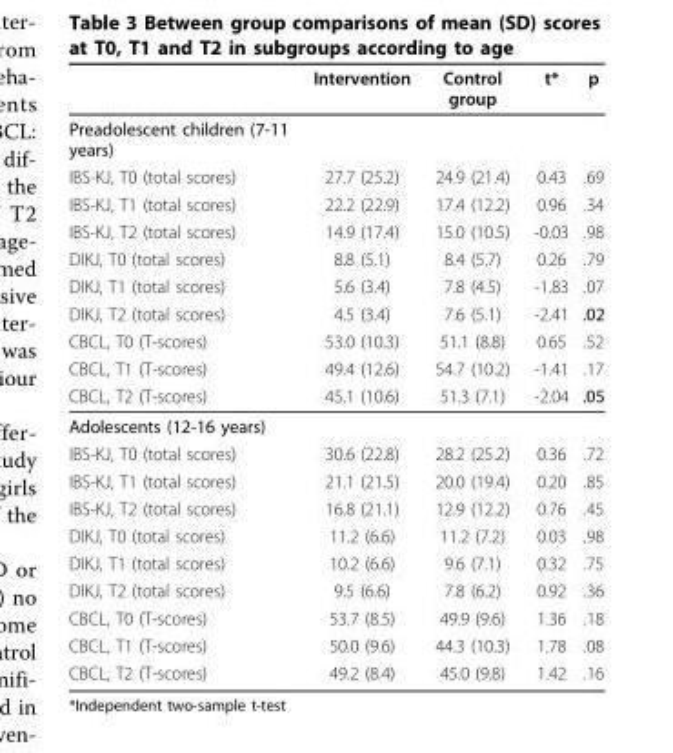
<table><thead><tr><td></td><td>Intervention</td><td>Control group</td><td>t*</td><td>p</td></tr></thead><tbody><tr><td colspan="5">Preadolescent children (7-11 years)</td></tr><tr><td>IBS-KJ, T0 (total scores)</td><td>27.7 (25.2)</td><td>24.9 (21.4)</td><td>0.43</td><td>.69</td></tr><tr><td>IBS-KJ, T1 (total scores)</td><td>22.2 (22.9)</td><td>17.4 (12.2)</td><td>0.96</td><td>.34</td></tr><tr><td>IBS-KJ, T2 (total scores)</td><td>14.9 (17.4)</td><td>15.0 (10.5)</td><td>-0.03</td><td>.98</td></tr><tr><td>DIKJ, T0 (total scores)</td><td>8.8 (5.1)</td><td>8.4 (5.7)</td><td>0.26</td><td>.79</td></tr><tr><td>DIKJ, T1 (total scores)</td><td>5.6 (3.4)</td><td>7.8 (4.5)</td><td>-1.83</td><td>.07</td></tr><tr><td>DIKJ, T2 (total scores)</td><td>4.5 (3.4)</td><td>7.6 (5.1)</td><td>-2.41</td><td>.02</td></tr><tr><td>CBCL, T0 (T-scores)</td><td>53.0 (10.3)</td><td>51.1 (8.8)</td><td>0.65</td><td>.52</td></tr><tr><td>CBCL, T1 (T-scores)</td><td>49.4 (12.6)</td><td>54.7 (10.2)</td><td>-1.41</td><td>.17</td></tr><tr><td>CBCL, T2 (T-scores)</td><td>45.1 (10.6)</td><td>51.3 (7.1)</td><td>-2.04</td><td>.05</td></tr><tr><td colspan="5">Adolescents (12-16 years)</td></tr><tr><td>IBS-KJ, T0 (total scores)</td><td>30.6 (22.8)</td><td>28.2 (25.2)</td><td>0.36</td><td>.72</td></tr><tr><td>IBS-KJ, T1 (total scores)</td><td>21.1 (21.5)</td><td>20.0 (19.4)</td><td>0.20</td><td>.85</td></tr><tr><td>IBS-KJ, T2 (total scores)</td><td>16.8 (21.1)</td><td>12.9 (12.2)</td><td>0.76</td><td>.45</td></tr><tr><td>DIKJ, T0 (total scores)</td><td>11.2 (6.6)</td><td>11.2 (7.2)</td><td>0.03</td><td>.98</td></tr><tr><td>DIKJ, T1 (total scores)</td><td>10.2 (6.6)</td><td>9.6 (7.1)</td><td>0.32</td><td>.75</td></tr><tr><td>DIKJ, T2 (total scores)</td><td>9.5 (6.6)</td><td>7.8 (6.2)</td><td>0.92</td><td>.36</td></tr><tr><td>CBCL, T0 (T-scores)</td><td>53.7 (8.5)</td><td>49.9 (9.6)</td><td>1.36</td><td>.18</td></tr><tr><td>CBCL, T1 (T-scores)</td><td>50.0 (9.6)</td><td>44.3 (10.3)</td><td>1.78</td><td>.08</td></tr><tr><td>CBCL, T2 (T-scores)</td><td>49.2 (8.4)</td><td>45.0 (9.8)</td><td>1.42</td><td>.16</td></tr></tbody></table>